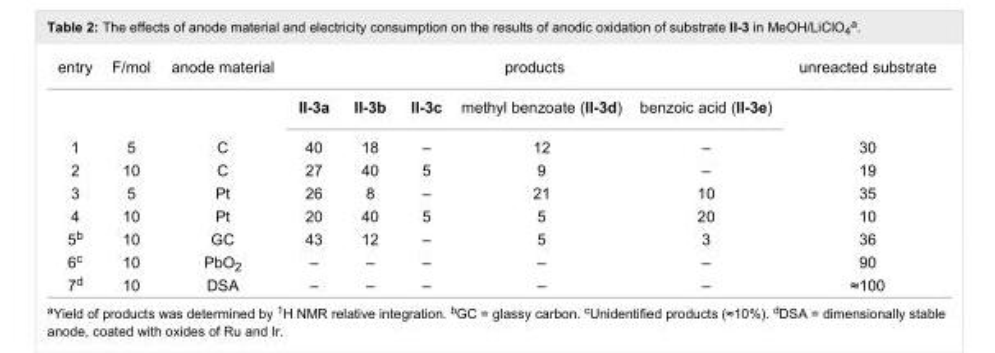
<table><tbody><tr><td rowspan="2">entry</td><td>F/mol</td><td>anode material</td><td colspan="5">products</td><td>unreacted substrate</td></tr><tr><td></td><td></td><td>II-3a</td><td>II-3b</td><td>II-3c</td><td>methyl benzoate (II-3d)</td><td>benzoic acid (II-3e)</td><td></td></tr><tr><td>1</td><td>5</td><td>C</td><td>40</td><td>18</td><td>–</td><td>12</td><td>–</td><td>30</td></tr><tr><td>2</td><td>10</td><td>C</td><td>27</td><td>40</td><td>5</td><td>9</td><td>–</td><td>19</td></tr><tr><td>3</td><td>5</td><td>Pt</td><td>26</td><td>8</td><td>–</td><td>21</td><td>10</td><td>35</td></tr><tr><td>4</td><td>10</td><td>Pt</td><td>20</td><td>40</td><td>5</td><td>5</td><td>20</td><td>10</td></tr><tr><td>5<sup>b</sup></td><td>10</td><td>GC</td><td>43</td><td>12</td><td>–</td><td>5</td><td>3</td><td>36</td></tr><tr><td>6<sup>c</sup></td><td>10</td><td>PbO<sub>2</sub></td><td>–</td><td>–</td><td>–</td><td>–</td><td>–</td><td>90</td></tr><tr><td>7<sup>d</sup></td><td>10</td><td>DSA</td><td>–</td><td>–</td><td>–</td><td>–</td><td>–</td><td>≈100</td></tr></tbody></table>